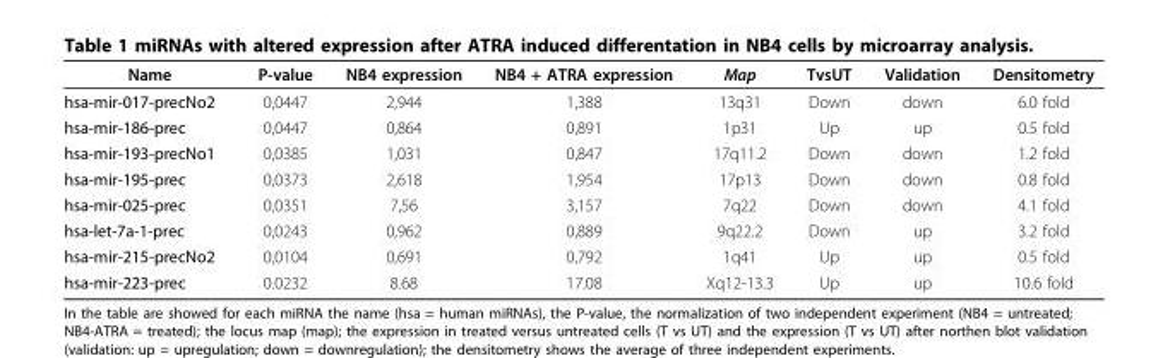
<table><thead><tr><td>Name</td><td>P-value</td><td>NB4 expression</td><td>NB4 + ATRA expression</td><td>Map</td><td>TvsUT</td><td>Validation</td><td>Densitometry</td></tr></thead><tbody><tr><td>hsa-mir-017-precNo2</td><td>0,0447</td><td>2,944</td><td>1,388</td><td>13q31</td><td>Down</td><td>down</td><td>6.0 fold</td></tr><tr><td>hsa-mir-186-prec</td><td>0,0447</td><td>0,864</td><td>0,891</td><td>1p31</td><td>Up</td><td>up</td><td>0.5 fold</td></tr><tr><td>hsa-mir-193-precNo1</td><td>0,0385</td><td>1,031</td><td>0,847</td><td>17q11.2</td><td>Down</td><td>down</td><td>1.2 fold</td></tr><tr><td>hsa-mir-195-prec</td><td>0,0373</td><td>2,618</td><td>1,954</td><td>17p13</td><td>Down</td><td>down</td><td>0.8 fold</td></tr><tr><td>hsa-mir-025-prec</td><td>0,0351</td><td>7,56</td><td>3,157</td><td>7q22</td><td>Down</td><td>down</td><td>4.1 fold</td></tr><tr><td>hsa-let-7a-1-prec</td><td>0,0243</td><td>0,962</td><td>0,889</td><td>9q22.2</td><td>Down</td><td>up</td><td>3.2 fold</td></tr><tr><td>hsa-mir-215-precNo2</td><td>0,0104</td><td>0,691</td><td>0,792</td><td>1q41</td><td>Up</td><td>up</td><td>0.5 fold</td></tr><tr><td>hsa-mir-223-prec</td><td>0.0232</td><td>8.68</td><td>17.08</td><td>Xq12-13.3</td><td>Up</td><td>up</td><td>10.6 fold</td></tr></tbody></table>